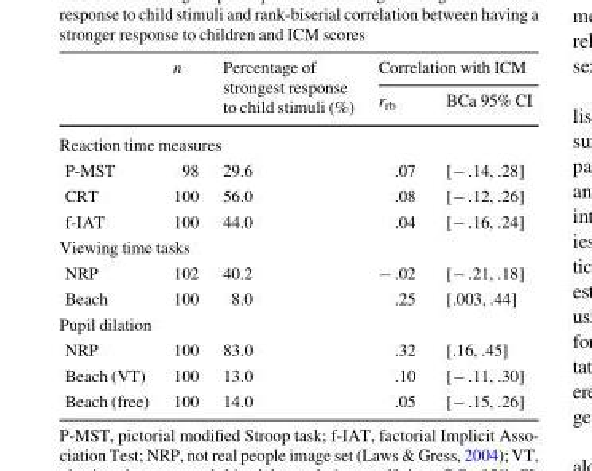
<table><thead><tr><td rowspan="2"></td><td rowspan="2">n</td><td rowspan="2">Percentage of strongest response to child stimuli (%)</td><td colspan="2">Correlation with ICM</td></tr><tr><td>r<sub>rb</sub></td><td>BCa 95% CI</td></tr></thead><tbody><tr><td colspan="5">Reaction time measures</td></tr><tr><td>P-MST</td><td>98</td><td>29.6</td><td>.07</td><td>[- .14, .28]</td></tr><tr><td>CRT</td><td>100</td><td>56.0</td><td>.08</td><td>[- .12, .26]</td></tr><tr><td>f-IAT</td><td>100</td><td>44.0</td><td>.04</td><td>[- .16, .24]</td></tr><tr><td colspan="5">Viewing time tasks</td></tr><tr><td>NRP</td><td>102</td><td>40.2</td><td>- .02</td><td>[- .21, .18]</td></tr><tr><td>Beach</td><td>100</td><td>8.0</td><td>.25</td><td>[.003, .44]</td></tr><tr><td colspan="5">Pupil dilation</td></tr><tr><td>NRP</td><td>100</td><td>83.0</td><td>.32</td><td>[.16, .45]</td></tr><tr><td>Beach (VT)</td><td>100</td><td>13.0</td><td>.10</td><td>[- .11, .30]</td></tr><tr><td>Beach (free)</td><td>100</td><td>14.0</td><td>.05</td><td>[- .15, .26]</td></tr></tbody></table>